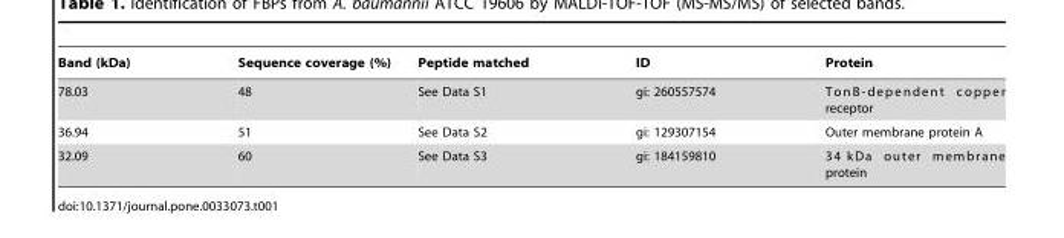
<table><thead><tr><td>Band (kDa)</td><td>Sequence coverage (%)</td><td>Peptide matched</td><td>ID</td><td>Protein</td></tr></thead><tbody><tr><td>78.03</td><td>48</td><td>See Data S1</td><td>gi: 260557574</td><td>TonB-dependent copper receptor</td></tr><tr><td>36.94</td><td>51</td><td>See Data S2</td><td>gi: 129307154</td><td>Outer membrane protein A</td></tr><tr><td>32.09</td><td>60</td><td>See Data S3</td><td>gi: 184159810</td><td>34 kDa outer membrane protein</td></tr></tbody></table>